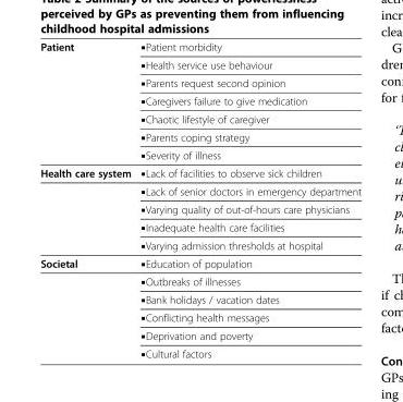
<table><tbody><tr><td rowspan="7">Patient</td><td>▪Patient morbidity</td></tr><tr><td>▪Health service use behaviour</td></tr><tr><td>▪Parents request second opinion</td></tr><tr><td>▪Caregivers failure to give medication</td></tr><tr><td>▪Chaotic lifestyle of caregiver</td></tr><tr><td>▪Parents coping strategy</td></tr><tr><td>▪Severity of illness</td></tr><tr><td rowspan="5">Health care system</td><td>▪Lack of facilities to observe sick children</td></tr><tr><td>▪Lack of senior doctors in emergency department</td></tr><tr><td>▪Varying quality of out-of-hours care physicians</td></tr><tr><td>▪Inadequate health care facilities</td></tr><tr><td>▪Varying admission thresholds at hospital</td></tr><tr><td rowspan="6">Societal</td><td>▪Education of population</td></tr><tr><td>▪Outbreaks of illnesses</td></tr><tr><td>▪Bank holidays / vacation dates</td></tr><tr><td>▪Conflicting health messages</td></tr><tr><td>▪Deprivation and poverty</td></tr><tr><td>▪Cultural factors</td></tr></tbody></table>